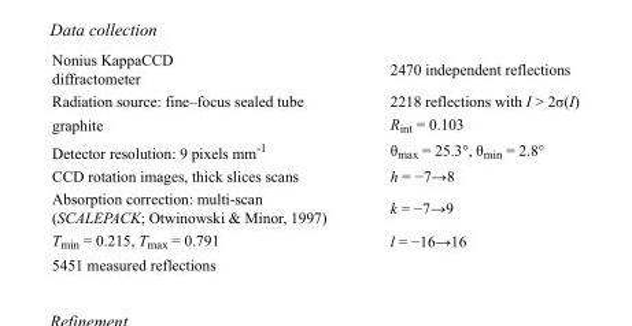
<table><tbody><tr><td>Nonius KappaCCD diffractometer</td><td>2470 independent reflections</td></tr><tr><td>Radiation source: fine–focus sealed tube</td><td>2218 reflections with I &gt; 2σ(I)</td></tr><tr><td>graphite</td><td>R<sub>int</sub> = 0.103</td></tr><tr><td>Detector resolution: 9 pixels mm<sup>-1</sup></td><td>θ<sub>max</sub> = 25.3°, θ<sub>min</sub> = 2.8°</td></tr><tr><td>CCD rotation images, thick slices scans</td><td>h = −7→8</td></tr><tr><td>Absorption correction: multi-scan (SCALEPACK; Otwinowski &amp; Minor, 1997)</td><td>k = −7→9</td></tr><tr><td>T<sub>min</sub> = 0.215, T<sub>max</sub> = 0.791</td><td>l = −16→16</td></tr><tr><td>5451 measured reflections</td><td></td></tr></tbody></table>